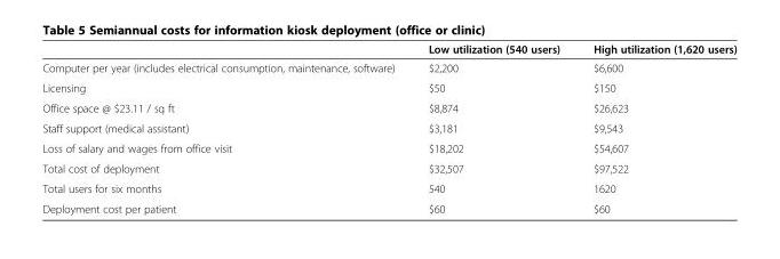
<table><thead><tr><td></td><td>Low utilization (540 users)</td><td>High utilization (1,620 users)</td></tr></thead><tbody><tr><td>Computer per year (includes electrical consumption, maintenance, software)</td><td>$2,200</td><td>$6,600</td></tr><tr><td>Licensing</td><td>$50</td><td>$150</td></tr><tr><td>Office space @ $23.11 / sq ft</td><td>$8,874</td><td>$26,623</td></tr><tr><td>Staff support (medical assistant)</td><td>$3,181</td><td>$9,543</td></tr><tr><td>Loss of salary and wages from office visit</td><td>$18,202</td><td>$54,607</td></tr><tr><td>Total cost of deployment</td><td>$32,507</td><td>$97,522</td></tr><tr><td>Total users for six months</td><td>540</td><td>1620</td></tr><tr><td>Deployment cost per patient</td><td>$60</td><td>$60</td></tr></tbody></table>